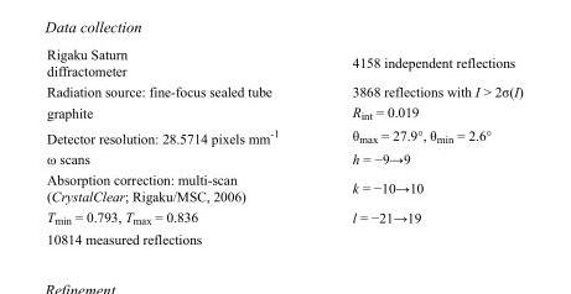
<table><tbody><tr><td>Rigaku Saturn diffractometer</td><td>4158 independent reflections</td></tr><tr><td>Radiation source: fine-focus sealed tube</td><td>3868 reflections with I &gt; 2σ(I)</td></tr><tr><td>graphite</td><td>R<sub>int</sub> = 0.019</td></tr><tr><td>Detector resolution: 28.5714 pixels mm<sup>-1</sup></td><td>θ<sub>max</sub> = 27.9°, θ<sub>min</sub> = 2.6°</td></tr><tr><td>ω scans</td><td>h = −9→9</td></tr><tr><td>Absorption correction: multi-scan (CrystalClear; Rigaku/MSC, 2006)</td><td>k = −10→10</td></tr><tr><td>T<sub>min</sub> = 0.793, T<sub>max</sub> = 0.836</td><td>l = −21→19</td></tr><tr><td>10814 measured reflections</td><td></td></tr></tbody></table>